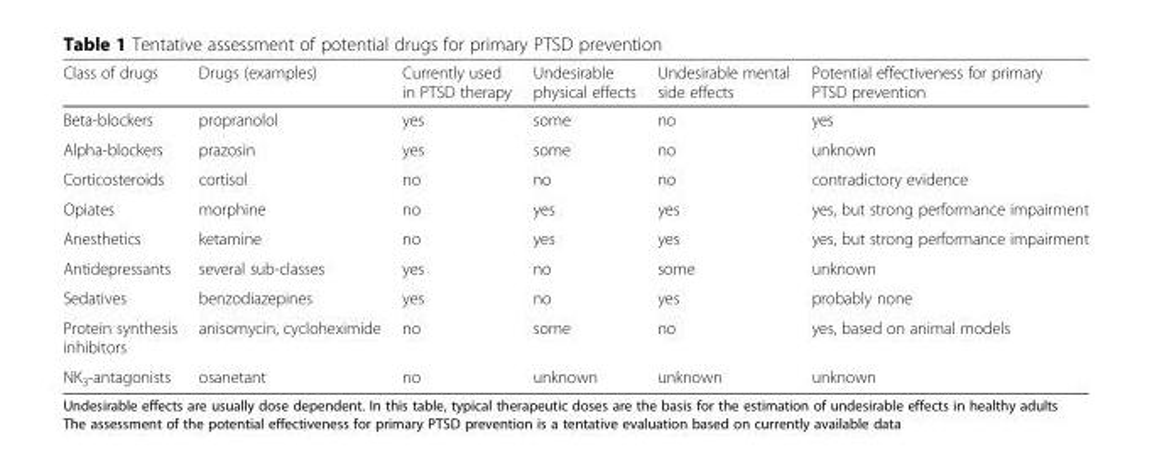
<table><thead><tr><td>Class of drugs</td><td>Drugs (examples)</td><td>Currently used in PTSD therapy</td><td>Undesirable physical effects</td><td>Undesirable mental side effects</td><td>Potential effectiveness for primary PTSD prevention</td></tr></thead><tbody><tr><td>Beta-blockers</td><td>propranolol</td><td>yes</td><td>some</td><td>no</td><td>yes</td></tr><tr><td>Alpha-blockers</td><td>prazosin</td><td>yes</td><td>some</td><td>no</td><td>unknown</td></tr><tr><td>Corticosteroids</td><td>cortisol</td><td>no</td><td>no</td><td>no</td><td>contradictory evidence</td></tr><tr><td>Opiates</td><td>morphine</td><td>no</td><td>yes</td><td>yes</td><td>yes, but strong performance impairment</td></tr><tr><td>Anesthetics</td><td>ketamine</td><td>no</td><td>yes</td><td>yes</td><td>yes, but strong performance impairment</td></tr><tr><td>Antidepressants</td><td>several sub-classes</td><td>yes</td><td>no</td><td>some</td><td>unknown</td></tr><tr><td>Sedatives</td><td>benzodiazepines</td><td>yes</td><td>no</td><td>yes</td><td>probably none</td></tr><tr><td>Protein synthesis inhibitors</td><td>anisomycin, cycloheximide</td><td>no</td><td>some</td><td>no</td><td>yes, based on animal models</td></tr><tr><td>NK<sub>3</sub>-antagonists</td><td>osanetant</td><td>no</td><td>unknown</td><td>unknown</td><td>unknown</td></tr></tbody></table>